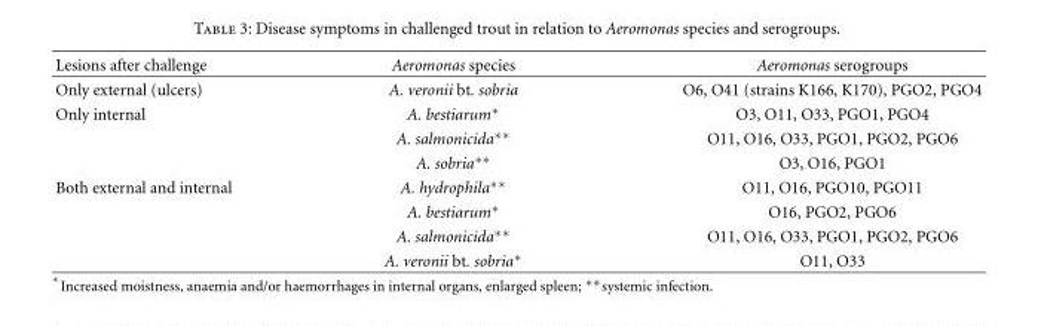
<table><thead><tr><td>Lesions after challenge</td><td>Aeromonas species</td><td>Aeromonas serogroups</td></tr></thead><tbody><tr><td>Only external (ulcers)</td><td>A. veronii bt. sobria</td><td>O6, O41 (strains K166, K170), PGO2, PGO4</td></tr><tr><td rowspan="3">Only internal</td><td>A. bestiarum∗</td><td>O3, O11, O33, PGO1, PGO4</td></tr><tr><td>A. salmonicida∗∗</td><td>O11, O16, O33, PGO1, PGO2, PGO6</td></tr><tr><td>A. sobria∗∗</td><td>O3, O16, PGO1</td></tr><tr><td rowspan="4">Both external and internal</td><td>A. hydrophila∗∗</td><td>O11, O16, PGO10, PGO11</td></tr><tr><td>A. bestiarum∗</td><td>O16, PGO2, PGO6</td></tr><tr><td>A. salmonicida∗∗</td><td>O11, O16, O33, PGO1, PGO2, PGO6</td></tr><tr><td>A. veronii bt. sobria∗</td><td>O11, O33</td></tr></tbody></table>